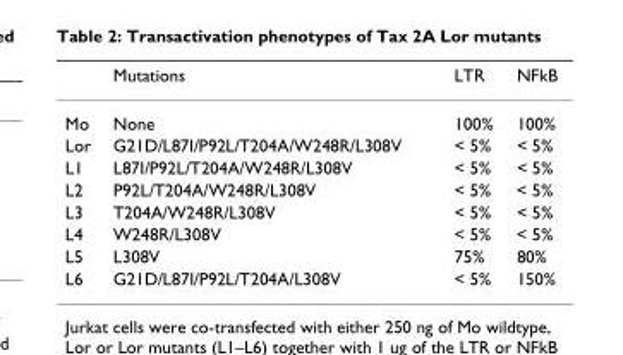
<table><thead><tr><td></td><td>Mutations</td><td>LTR</td><td>NFkB</td></tr></thead><tbody><tr><td>Mo</td><td>None</td><td>100%</td><td>100%</td></tr><tr><td>Lor</td><td>G21D/L87I/P92L/T204A/W248R/L308V</td><td>&lt; 5%</td><td>&lt; 5%</td></tr><tr><td>L1</td><td>L87I/P92L/T204A/W248R/L308V</td><td>&lt; 5%</td><td>&lt; 5%</td></tr><tr><td>L2</td><td>P92L/T204A/W248R/L308V</td><td>&lt; 5%</td><td>&lt; 5%</td></tr><tr><td>L3</td><td>T204A/W248R/L308V</td><td>&lt; 5%</td><td>&lt; 5%</td></tr><tr><td>L4</td><td>W248R/L308V</td><td>&lt; 5%</td><td>&lt; 5%</td></tr><tr><td>L5</td><td>L308V</td><td>75%</td><td>80%</td></tr><tr><td>L6</td><td>G21D/L87I/P92L/T204A/L308V</td><td>&lt; 5%</td><td>150%</td></tr></tbody></table>